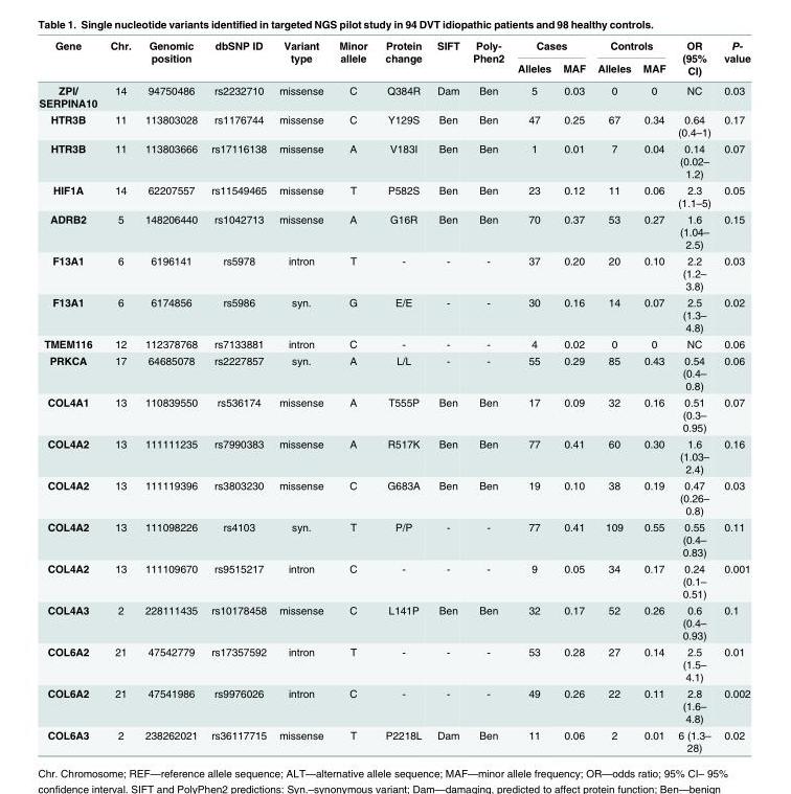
<table><thead><tr><td rowspan="2">Gene</td><td rowspan="2">Chr.</td><td rowspan="2">Genomic position</td><td rowspan="2">dbSNP ID</td><td rowspan="2">Variant type</td><td rowspan="2">Minor allele</td><td rowspan="2">Protein change</td><td rowspan="2">SIFT</td><td rowspan="2">Poly- Phen2</td><td colspan="2">Cases</td><td colspan="2">Controls</td><td rowspan="2">OR (95% CI)</td><td rowspan="2">P- value</td></tr><tr><td>Alleles</td><td>MAF</td><td>Alleles</td><td>MAF</td></tr></thead><tbody><tr><td>ZPI/ SERPINA10</td><td>14</td><td>94750486</td><td>rs2232710</td><td>missense</td><td>C</td><td>Q384R</td><td>Dam</td><td>Ben</td><td>5</td><td>0.03</td><td>0</td><td>0</td><td>NC</td><td>0.03</td></tr><tr><td>HTR3B</td><td>11</td><td>113803028</td><td>rs1176744</td><td>missense</td><td>C</td><td>Y129S</td><td>Ben</td><td>Ben</td><td>47</td><td>0.25</td><td>67</td><td>0.34</td><td>0.64 (0.4–1)</td><td>0.17</td></tr><tr><td>HTR3B</td><td>11</td><td>113803666</td><td>rs17116138</td><td>missense</td><td>A</td><td>V183I</td><td>Ben</td><td>Ben</td><td>1</td><td>0.01</td><td>7</td><td>0.04</td><td>0.14 (0.02– 1.2)</td><td>0.07</td></tr><tr><td>HIF1A</td><td>14</td><td>62207557</td><td>rs11549465</td><td>missense</td><td>T</td><td>P582S</td><td>Ben</td><td>Ben</td><td>23</td><td>0.12</td><td>11</td><td>0.06</td><td>2.3 (1.1–5)</td><td>0.05</td></tr><tr><td>ADRB2</td><td>5</td><td>148206440</td><td>rs1042713</td><td>missense</td><td>A</td><td>G16R</td><td>Ben</td><td>Ben</td><td>70</td><td>0.37</td><td>53</td><td>0.27</td><td>1.6 (1.04– 2.5)</td><td>0.15</td></tr><tr><td>F13A1</td><td>6</td><td>6196141</td><td>rs5978</td><td>intron</td><td>T</td><td>-</td><td>-</td><td>-</td><td>37</td><td>0.20</td><td>20</td><td>0.10</td><td>2.2 (1.2– 3.8)</td><td>0.03</td></tr><tr><td>F13A1</td><td>6</td><td>6174856</td><td>rs5986</td><td>syn.</td><td>G</td><td>E/E</td><td>-</td><td>-</td><td>30</td><td>0.16</td><td>14</td><td>0.07</td><td>2.5 (1.3– 4.8)</td><td>0.02</td></tr><tr><td>TMEM116</td><td>12</td><td>112378768</td><td>rs7133881</td><td>intron</td><td>C</td><td>-</td><td>-</td><td>-</td><td>4</td><td>0.02</td><td>0</td><td>0</td><td>NC</td><td>0.06</td></tr><tr><td>PRKCA</td><td>17</td><td>64685078</td><td>rs2227857</td><td>syn.</td><td>A</td><td>L/L</td><td>-</td><td>-</td><td>55</td><td>0.29</td><td>85</td><td>0.43</td><td>0.54 (0.4– 0.8)</td><td>0.06</td></tr><tr><td>COL4A1</td><td>13</td><td>110839550</td><td>rs536174</td><td>missense</td><td>A</td><td>T555P</td><td>Ben</td><td>Ben</td><td>17</td><td>0.09</td><td>32</td><td>0.16</td><td>0.51 (0.3– 0.95)</td><td>0.07</td></tr><tr><td>COL4A2</td><td>13</td><td>111111235</td><td>rs7990383</td><td>missense</td><td>A</td><td>R517K</td><td>Ben</td><td>Ben</td><td>77</td><td>0.41</td><td>60</td><td>0.30</td><td>1.6 (1.03– 2.4)</td><td>0.16</td></tr><tr><td>COL4A2</td><td>13</td><td>111119396</td><td>rs3803230</td><td>missense</td><td>C</td><td>G683A</td><td>Ben</td><td>Ben</td><td>19</td><td>0.10</td><td>38</td><td>0.19</td><td>0.47 (0.26– 0.8)</td><td>0.03</td></tr><tr><td>COL4A2</td><td>13</td><td>111098226</td><td>rs4103</td><td>syn.</td><td>T</td><td>P/P</td><td>-</td><td>-</td><td>77</td><td>0.41</td><td>109</td><td>0.55</td><td>0.55 (0.4– 0.83)</td><td>0.11</td></tr><tr><td>COL4A2</td><td>13</td><td>111109670</td><td>rs9515217</td><td>intron</td><td>C</td><td>-</td><td>-</td><td>-</td><td>9</td><td>0.05</td><td>34</td><td>0.17</td><td>0.24 (0.1– 0.51)</td><td>0.001</td></tr><tr><td>COL4A3</td><td>2</td><td>228111435</td><td>rs10178458</td><td>missense</td><td>C</td><td>L141P</td><td>Ben</td><td>Ben</td><td>32</td><td>0.17</td><td>52</td><td>0.26</td><td>0.6 (0.4– 0.93)</td><td>0.1</td></tr><tr><td>COL6A2</td><td>21</td><td>47542779</td><td>rs17357592</td><td>intron</td><td>T</td><td>-</td><td>-</td><td>-</td><td>53</td><td>0.28</td><td>27</td><td>0.14</td><td>2.5 (1.5– 4.1)</td><td>0.01</td></tr><tr><td>COL6A2</td><td>21</td><td>47541986</td><td>rs9976026</td><td>intron</td><td>C</td><td>-</td><td>-</td><td>-</td><td>49</td><td>0.26</td><td>22</td><td>0.11</td><td>2.8 (1.6– 4.8)</td><td>0.002</td></tr><tr><td>COL6A3</td><td>2</td><td>238262021</td><td>rs36117715</td><td>missense</td><td>T</td><td>P2218L</td><td>Dam</td><td>Ben</td><td>11</td><td>0.06</td><td>2</td><td>0.01</td><td>6 (1.3– 28)</td><td>0.02</td></tr></tbody></table>